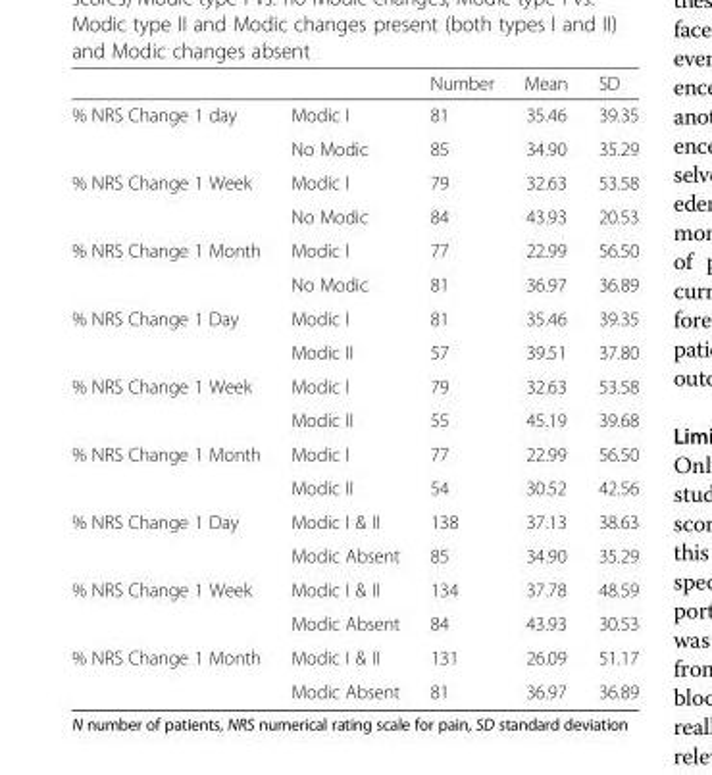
<table><thead><tr><td></td><td></td><td>Number</td><td>Mean</td><td>SD</td></tr></thead><tbody><tr><td rowspan="2">% NRS Change 1 day</td><td>Modic I</td><td>81</td><td>35.46</td><td>39.35</td></tr><tr><td>No Modic</td><td>85</td><td>34.90</td><td>35.29</td></tr><tr><td rowspan="2">% NRS Change 1 Week</td><td>Modic I</td><td>79</td><td>32.63</td><td>53.58</td></tr><tr><td>No Modic</td><td>84</td><td>43.93</td><td>20.53</td></tr><tr><td rowspan="2">% NRS Change 1 Month</td><td>Modic I</td><td>77</td><td>22.99</td><td>56.50</td></tr><tr><td>No Modic</td><td>81</td><td>36.97</td><td>36.89</td></tr><tr><td rowspan="2">% NRS Change 1 Day</td><td>Modic I</td><td>81</td><td>35.46</td><td>39.35</td></tr><tr><td>Modic II</td><td>57</td><td>39.51</td><td>37.80</td></tr><tr><td rowspan="2">% NRS Change 1 Week</td><td>Modic I</td><td>79</td><td>32.63</td><td>53.58</td></tr><tr><td>Modic II</td><td>55</td><td>45.19</td><td>39.68</td></tr><tr><td rowspan="2">% NRS Change 1 Month</td><td>Modic I</td><td>77</td><td>22.99</td><td>56.50</td></tr><tr><td>Modic II</td><td>54</td><td>30.52</td><td>42.56</td></tr><tr><td rowspan="2">% NRS Change 1 Day</td><td>Modic I &amp; II</td><td>138</td><td>37.13</td><td>38.63</td></tr><tr><td>Modic Absent</td><td>85</td><td>34.90</td><td>35.29</td></tr><tr><td rowspan="2">% NRS Change 1 Week</td><td>Modic I &amp; II</td><td>134</td><td>37.78</td><td>48.59</td></tr><tr><td>Modic Absent</td><td>84</td><td>43.93</td><td>30.53</td></tr><tr><td rowspan="2">% NRS Change 1 Month</td><td>Modic I &amp; II</td><td>131</td><td>26.09</td><td>51.17</td></tr><tr><td>Modic Absent</td><td>81</td><td>36.97</td><td>36.89</td></tr></tbody></table>